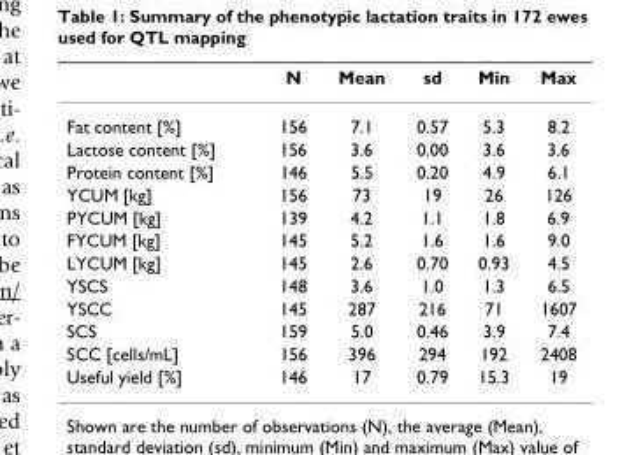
<table><thead><tr><td></td><td>N</td><td>Mean</td><td>sd</td><td>Min</td><td>Max</td></tr></thead><tbody><tr><td>Fat content [%]</td><td>156</td><td>7.1</td><td>0.57</td><td>5.3</td><td>8.2</td></tr><tr><td>Lactose content [%]</td><td>156</td><td>3.6</td><td>0.00</td><td>3.6</td><td>3.6</td></tr><tr><td>Protein content [%]</td><td>146</td><td>5.5</td><td>0.20</td><td>4.9</td><td>6.1</td></tr><tr><td>YCUM [kg]</td><td>156</td><td>73</td><td>19</td><td>26</td><td>126</td></tr><tr><td>PYCUM [kg]</td><td>139</td><td>4.2</td><td>1.1</td><td>1.8</td><td>6.9</td></tr><tr><td>FYCUM [kg]</td><td>145</td><td>5.2</td><td>1.6</td><td>1.6</td><td>9.0</td></tr><tr><td>LYCUM [kg]</td><td>145</td><td>2.6</td><td>0.70</td><td>0.93</td><td>4.5</td></tr><tr><td>YSCS</td><td>148</td><td>3.6</td><td>1.0</td><td>1.3</td><td>6.5</td></tr><tr><td>YSCC</td><td>145</td><td>287</td><td>216</td><td>71</td><td>1607</td></tr><tr><td>SCS</td><td>159</td><td>5.0</td><td>0.46</td><td>3.9</td><td>7.4</td></tr><tr><td>SCC [cells/mL]</td><td>156</td><td>396</td><td>294</td><td>192</td><td>2408</td></tr><tr><td>Useful yield [%]</td><td>146</td><td>17</td><td>0.79</td><td>15.3</td><td>19</td></tr></tbody></table>